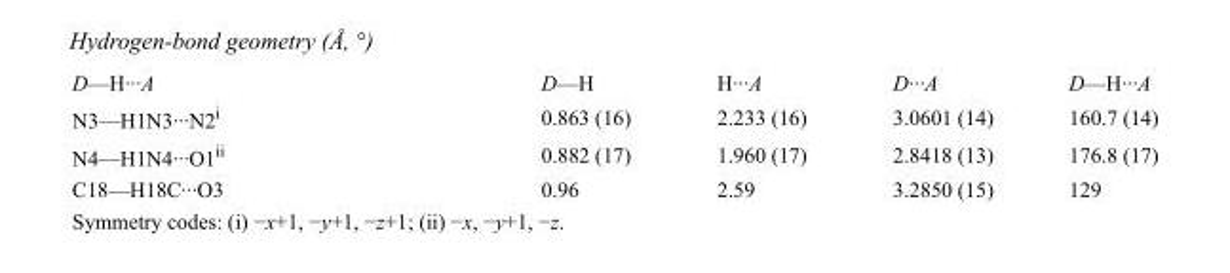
<table><tbody><tr><td>D—H···A</td><td>D—H</td><td>H···A</td><td>D···A</td><td>D—H···A</td></tr><tr><td>N3—H1N3···N2<sup>i</sup></td><td>0.863 (16)</td><td>2.233 (16)</td><td>3.0601 (14)</td><td>160.7 (14)</td></tr><tr><td>N4—H1N4···O1<sup>ii</sup></td><td>0.882 (17)</td><td>1.960 (17)</td><td>2.8418 (13)</td><td>176.8 (17)</td></tr><tr><td>C18—H18C···O3</td><td>0.96</td><td>2.59</td><td>3.2850 (15)</td><td>129</td></tr></tbody></table>